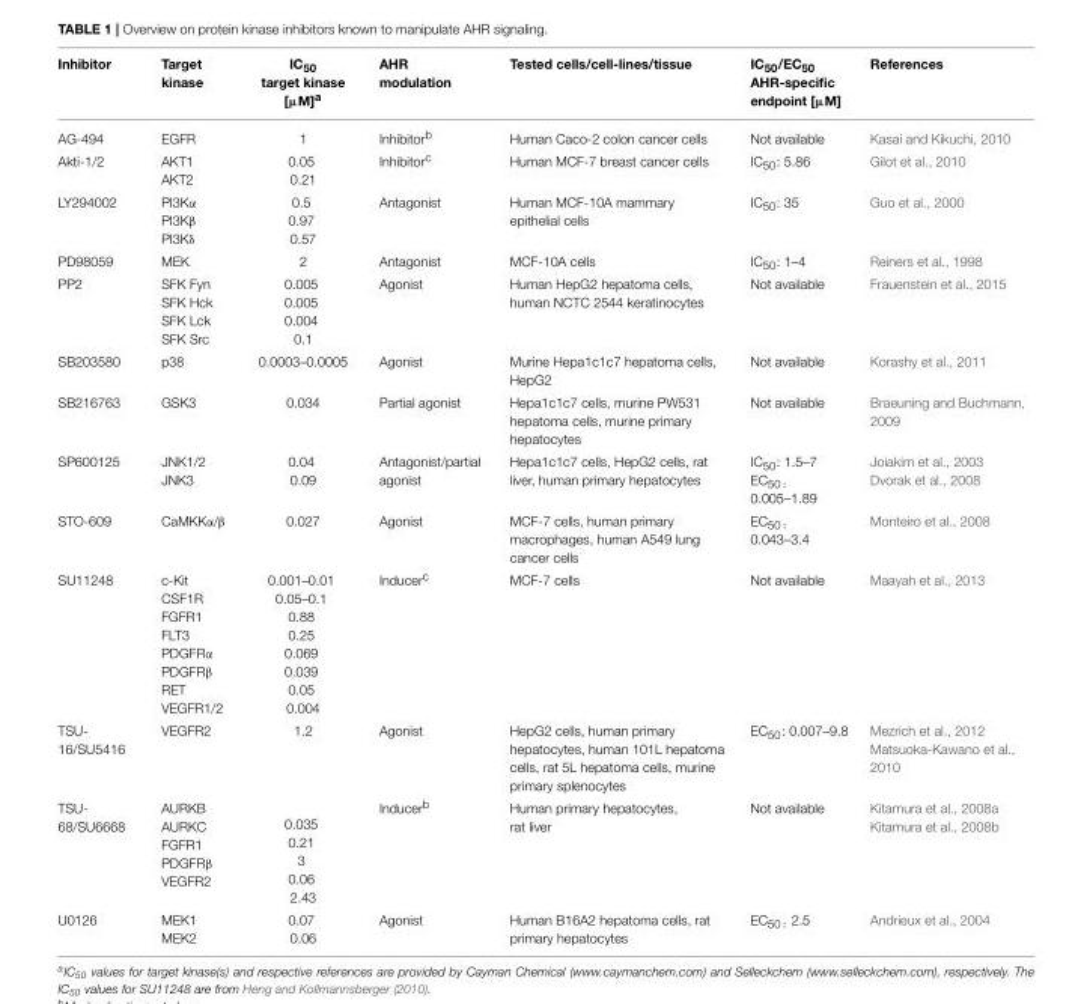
<table><thead><tr><td>Inhibitor</td><td>Target kinase</td><td>IC<sub>50</sub> target kinase [µM]<sup>a</sup></td><td>AHR modulation</td><td>Tested cells/cell-lines/tissue</td><td>IC<sub>50</sub>/EC<sub>50</sub> AHR-specific endpoint [µM]</td><td>References</td></tr></thead><tbody><tr><td>AG-494</td><td>EGFR</td><td>1</td><td>Inhibitor<sup>b</sup></td><td>Human Caco-2 colon cancer cells</td><td>Not available</td><td>Kasai and Kikuchi, 2010</td></tr><tr><td>Akti-1/2</td><td>AKT1 AKT2</td><td>0.05 0.21</td><td>Inhibitor<sup>c</sup></td><td>Human MCF-7 breast cancer cells</td><td>IC<sub>50</sub>: 5.86</td><td>Gilot et al., 2010</td></tr><tr><td>LY294002</td><td>PI3Kα PI3Kβ PI3Kδ</td><td>0.5 0.97 0.57</td><td>Antagonist</td><td>Human MCF-10A mammary epithelial cells</td><td>IC<sub>50</sub>: 35</td><td>Guo et al., 2000</td></tr><tr><td>PD98059</td><td>MEK</td><td>2</td><td>Antagonist</td><td>MCF-10A cells</td><td>IC<sub>50</sub>: 1–4</td><td>Reiners et al., 1998</td></tr><tr><td>PP2</td><td>SFK Fyn SFK Hck SFK Lck SFK Src</td><td>0.005 0.005 0.004 0.1</td><td>Agonist</td><td>Human HepG2 hepatoma cells, human NCTC 2544 keratinocytes</td><td>Not available</td><td>Frauenstein et al., 2015</td></tr><tr><td>SB203580</td><td>p38</td><td>0.0003–0.0005</td><td>Agonist</td><td>Murine Hepa1c1c7 hepatoma cells, HepG2</td><td>Not available</td><td>Korashy et al., 2011</td></tr><tr><td>SB216763</td><td>GSK3</td><td>0.034</td><td>Partial agonist</td><td>Hepa1c1c7 cells, murine PW531 hepatoma cells, murine primary hepatocytes</td><td>Not available</td><td>Braeuning and Buchmann, 2009</td></tr><tr><td>SP600125</td><td>JNK1/2 JNK3</td><td>0.04 0.09</td><td>Antagonist/partial agonist</td><td>Hepa1c1c7 cells, HepG2 cells, rat liver, human primary hepatocytes</td><td>IC<sub>50</sub>: 1.5–7 EC<sub>50 :</sub> 0.005–1.89</td><td>Joiakim et al., 2003 Dvorak et al., 2008</td></tr><tr><td>STO-609</td><td>CaMKKα/β</td><td>0.027</td><td>Agonist</td><td>MCF-7 cells, human primary macrophages, human A549 lung cancer cells</td><td>EC<sub>50 :</sub> 0.043–3.4</td><td>Monteiro et al., 2008</td></tr><tr><td>SU11248</td><td>c-Kit CSF1R FGFR1 FLT3 PDGFRα PDGFRβ RET VEGFR1/2</td><td>0.001–0.01 0.05–0.1 0.88 0.25 0.069 0.039 0.05 0.004</td><td>Inducer<sup>c</sup></td><td>MCF-7 cells</td><td>Not available</td><td>Maayah et al., 2013</td></tr><tr><td>TSU- 16/SU5416</td><td>VEGFR2</td><td>1.2</td><td>Agonist</td><td>HepG2 cells, human primary hepatocytes, human 101L hepatoma cells, rat 5L hepatoma cells, murine primary splenocytes</td><td>EC<sub>50</sub>: 0.007–9.8</td><td>Mezrich et al., 2012 Matsuoka-Kawano et al., 2010</td></tr><tr><td>TSU- 68/SU6668</td><td>AURKB AURKC FGFR1 PDGFRβ VEGFR2</td><td>0.035 0.21 3 0.06 2.43</td><td>Inducer<sup>b</sup></td><td>Human primary hepatocytes, rat liver</td><td>Not available</td><td>Kitamura et al., 2008a Kitamura et al., 2008b</td></tr><tr><td>U0126</td><td>MEK1 MEK2</td><td>0.07 0.06</td><td>Agonist</td><td>Human B16A2 hepatoma cells, rat primary hepatocytes</td><td>EC<sub>50 :</sub> 2.5</td><td>Andrieux et al., 2004</td></tr></tbody></table>